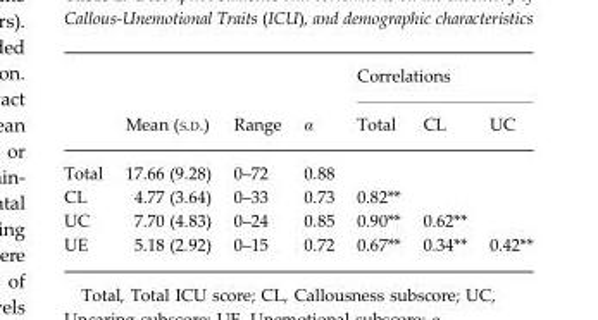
<table><thead><tr><td rowspan="2"></td><td rowspan="2">Mean (S.D.)</td><td rowspan="2">Range</td><td rowspan="2">α</td><td colspan="3">Correlations</td></tr><tr><td>Total</td><td>CL</td><td>UC</td></tr></thead><tbody><tr><td>Total</td><td>17.66 (9.28)</td><td>0–72</td><td>0.88</td><td></td><td></td><td></td></tr><tr><td>CL</td><td>4.77 (3.64)</td><td>0–33</td><td>0.73</td><td>0.82**</td><td></td><td></td></tr><tr><td>UC</td><td>7.70 (4.83)</td><td>0–24</td><td>0.85</td><td>0.90**</td><td>0.62**</td><td></td></tr><tr><td>UE</td><td>5.18 (2.92)</td><td>0–15</td><td>0.72</td><td>0.67**</td><td>0.34**</td><td>0.42**</td></tr></tbody></table>